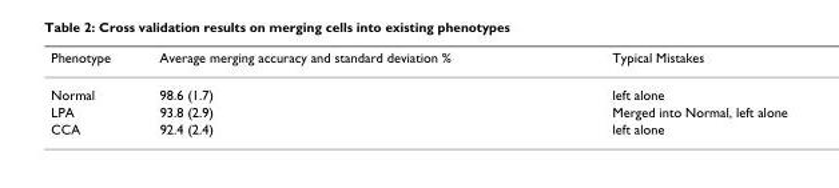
<table><thead><tr><td>Phenotype</td><td>Average merging accuracy and standard deviation %</td><td>Typical Mistakes</td></tr></thead><tbody><tr><td>Normal</td><td>98.6 (1.7)</td><td>left alone</td></tr><tr><td>LPA</td><td>93.8 (2.9)</td><td>Merged into Normal, left alone</td></tr><tr><td>CCA</td><td>92.4 (2.4)</td><td>left alone</td></tr></tbody></table>